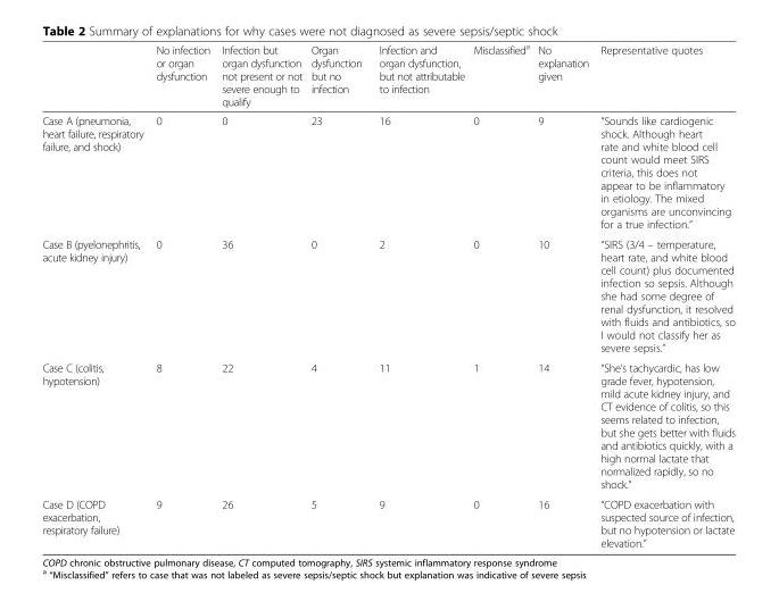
<table><thead><tr><td></td><td>No infection or organ dysfunction</td><td>Infection but organ dysfunction not present or not severe enough to qualify</td><td>Organ dysfunction but no infection</td><td>Infection and organ dysfunction, but not attributable to infection</td><td>Misclassified<sup>a</sup></td><td>No explanation given</td><td>Representative quotes</td></tr></thead><tbody><tr><td>Case A (pneumonia, heart failure, respiratory failure, and shock)</td><td>0</td><td>0</td><td>23</td><td>16</td><td>0</td><td>9</td><td>“Sounds like cardiogenic shock. Although heart rate and white blood cell count would meet SIRS criteria, this does not appear to be inflammatory in etiology. The mixed organisms are unconvincing for a true infection.”</td></tr><tr><td>Case B (pyelonephritis, acute kidney injury)</td><td>0</td><td>36</td><td>0</td><td>2</td><td>0</td><td>10</td><td>“SIRS (3/4 – temperature, heart rate, and white blood cell count) plus documented infection so sepsis. Although she had some degree of renal dysfunction, it resolved with fluids and antibiotics, so I would not classify her as severe sepsis.”</td></tr><tr><td>Case C (colitis, hypotension)</td><td>8</td><td>22</td><td>4</td><td>11</td><td>1</td><td>14</td><td>“She’s tachycardic, has low grade fever, hypotension, mild acute kidney injury, and CT evidence of colitis, so this seems related to infection, but she gets better with fluids and antibiotics quickly, with a high normal lactate that normalized rapidly, so no shock.”</td></tr><tr><td>Case D (COPD exacerbation, respiratory failure)</td><td>9</td><td>26</td><td>5</td><td>9</td><td>0</td><td>16</td><td>“COPD exacerbation with suspected source of infection, but no hypotension or lactate elevation.”</td></tr></tbody></table>